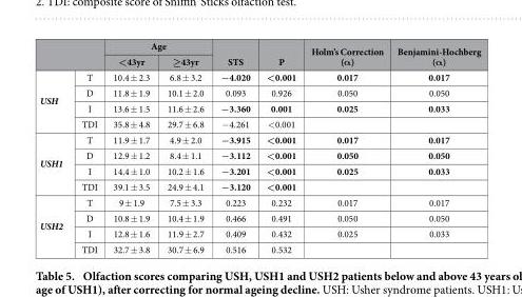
<table><thead><tr><td rowspan="2"></td><td rowspan="2"></td><td colspan="2">Age</td><td rowspan="2">STS</td><td rowspan="2">P</td><td rowspan="2">Holm’s Correction (α)</td><td rowspan="2">Benjamini-Hochberg (α)</td></tr><tr><td>&lt;43yr</td><td>≥43yr</td></tr></thead><tbody><tr><td rowspan="4">USH</td><td>T</td><td>10.4 ± 2.3</td><td>6.8 ± 3.2</td><td>−4.020</td><td>&lt;0.001</td><td>0.017</td><td>0.017</td></tr><tr><td>D</td><td>11.8 ± 1.9</td><td>10.1 ± 2.0</td><td>0.093</td><td>0.926</td><td>0.050</td><td>0.050</td></tr><tr><td>I</td><td>13.6 ± 1.5</td><td>11.6 ± 2.6</td><td>−3.360</td><td>0.001</td><td>0.025</td><td>0.033</td></tr><tr><td>TDI</td><td>35.8 ± 4.8</td><td>29.7 ± 6.8</td><td>− 4.261</td><td>&lt; 0.001</td><td></td><td></td></tr><tr><td rowspan="4">USH1</td><td>T</td><td>11.9 ± 1.7</td><td>4.9 ± 2.0</td><td>−3.915</td><td>&lt;0.001</td><td>0.017</td><td>0.017</td></tr><tr><td>D</td><td>12.9 ± 1.2</td><td>8.4 ± 1.1</td><td>−3.112</td><td>&lt;0.001</td><td>0.050</td><td>0.050</td></tr><tr><td>I</td><td>14.4 ± 1.0</td><td>10.2 ± 1.6</td><td>−3.201</td><td>&lt;0.001</td><td>0.025</td><td>0.033</td></tr><tr><td>TDI</td><td>39.1 ± 3.5</td><td>24.9 ± 4.1</td><td>−3.120</td><td>&lt;0.001</td><td></td><td></td></tr><tr><td rowspan="4">USH2</td><td>T</td><td>9 ± 1.9</td><td>7.5 ± 3.3</td><td>0.223</td><td>0.232</td><td>0.017</td><td>0.017</td></tr><tr><td>D</td><td>10.8 ± 1.9</td><td>10.4 ± 1.9</td><td>0.466</td><td>0.491</td><td>0.050</td><td>0.050</td></tr><tr><td>I</td><td>12.8 ± 1.6</td><td>11.9 ± 2.7</td><td>0.409</td><td>0.432</td><td>0.025</td><td>0.033</td></tr><tr><td>TDI</td><td>32.7 ± 3.8</td><td>30.7 ± 6.9</td><td>0.516</td><td>0.532</td><td></td><td></td></tr></tbody></table>